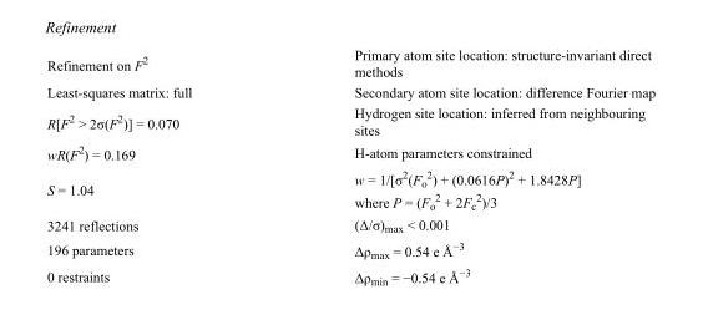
<table><tbody><tr><td>Refinement on F<sup>2</sup></td><td>Primary atom site location: structure-invariant direct methods</td></tr><tr><td>Least-squares matrix: full</td><td>Secondary atom site location: difference Fourier map</td></tr><tr><td>R[F<sup>2</sup> &gt; 2σ(F<sup>2</sup>)] = 0.070</td><td>Hydrogen site location: inferred from neighbouring sites</td></tr><tr><td>wR(F<sup>2</sup>) = 0.169</td><td>H-atom parameters constrained</td></tr><tr><td>S = 1.04</td><td>w = 1/[σ<sup>2</sup>(F<sub>o</sub> <sup>2</sup>) + (0.0616P)<sup>2</sup> + 1.8428P] where P = (F<sub>o</sub> <sup>2</sup> + 2F<sub>c</sub> <sup>2</sup>)/3</td></tr><tr><td>3241 reflections</td><td>(Δ/σ)<sub>max</sub> &lt; 0.001</td></tr><tr><td>196 parameters</td><td>Δρ<sub>max</sub> = 0.54 e Å<sup>−3</sup></td></tr><tr><td>0 restraints</td><td>Δρ<sub>min</sub> = −0.54 e Å<sup>−3</sup></td></tr></tbody></table>